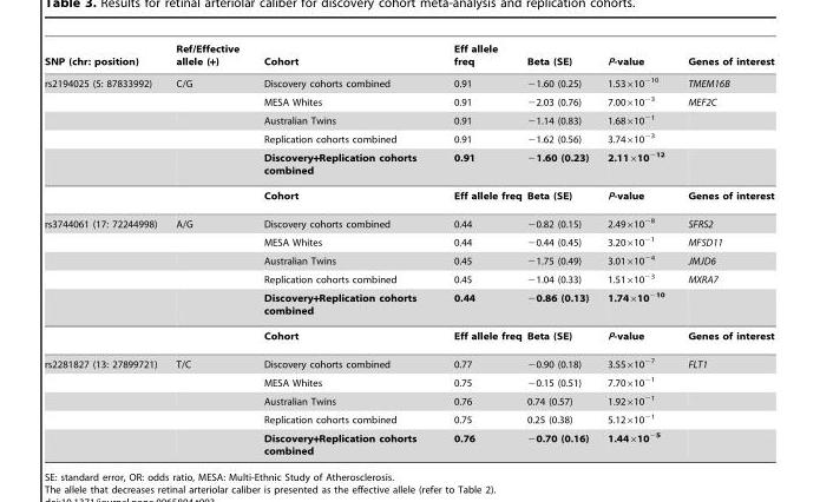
<table><thead><tr><td>SNP (chr: position)</td><td>Ref/Effective allele (+)</td><td>Cohort</td><td>Eff allele freq</td><td>Beta (SE)</td><td>P-value</td><td>Genes of interest</td></tr></thead><tbody><tr><td rowspan="6">rs2194025 (5: 87833992)</td><td>C/G</td><td>Discovery cohorts combined</td><td>0.91</td><td>−1.60 (0.25)</td><td>1.53×10<sup>−10</sup></td><td>TMEM16B</td></tr><tr><td></td><td>MESA Whites</td><td>0.91</td><td>−2.03 (0.76)</td><td>7.00×10<sup>−3</sup></td><td>MEF2C</td></tr><tr><td></td><td>Australian Twins</td><td>0.91</td><td>−1.14 (0.83)</td><td>1.68×10<sup>−1</sup></td><td></td></tr><tr><td></td><td>Replication cohorts combined</td><td>0.91</td><td>−1.62 (0.56)</td><td>3.74×10<sup>−3</sup></td><td></td></tr><tr><td></td><td>Discovery+Replication cohorts combined</td><td>0.91</td><td>−1.60 (0.23)</td><td>2.11×10<sup>−12</sup></td><td></td></tr><tr><td></td><td>Cohort</td><td>Eff allele freq</td><td>Beta (SE)</td><td>P-value</td><td>Genes of interest</td></tr><tr><td rowspan="6">rs3744061 (17: 72244998)</td><td>A/G</td><td>Discovery cohorts combined</td><td>0.44</td><td>−0.82 (0.15)</td><td>2.49×10<sup>−8</sup></td><td>SFRS2</td></tr><tr><td></td><td>MESA Whites</td><td>0.44</td><td>−0.44 (0.45)</td><td>3.20×10<sup>−1</sup></td><td>MFSD11</td></tr><tr><td></td><td>Australian Twins</td><td>0.45</td><td>−1.75 (0.49)</td><td>3.01×10<sup>−4</sup></td><td>JMJD6</td></tr><tr><td></td><td>Replication cohorts combined</td><td>0.45</td><td>−1.04 (0.33)</td><td>1.51×10<sup>−3</sup></td><td>MXRA7</td></tr><tr><td></td><td>Discovery+Replication cohorts combined</td><td>0.44</td><td>−0.86 (0.13)</td><td>1.74×10<sup>−10</sup></td><td></td></tr><tr><td></td><td>Cohort</td><td>Eff allele freq</td><td>Beta (SE)</td><td>P-value</td><td>Genes of interest</td></tr><tr><td rowspan="5">rs2281827 (13: 27899721)</td><td>T/C</td><td>Discovery cohorts combined</td><td>0.77</td><td>−0.90 (0.18)</td><td>3.55×10<sup>−7</sup></td><td>FLT1</td></tr><tr><td></td><td>MESA Whites</td><td>0.75</td><td>−0.15 (0.51)</td><td>7.70×10<sup>−1</sup></td><td></td></tr><tr><td></td><td>Australian Twins</td><td>0.76</td><td>0.74 (0.57)</td><td>1.92×10<sup>−1</sup></td><td></td></tr><tr><td></td><td>Replication cohorts combined</td><td>0.75</td><td>0.25 (0.38)</td><td>5.12×10<sup>−1</sup></td><td></td></tr><tr><td></td><td>Discovery+Replication cohorts combined</td><td>0.76</td><td>−0.70 (0.16)</td><td>1.44×10<sup>−5</sup></td><td></td></tr></tbody></table>